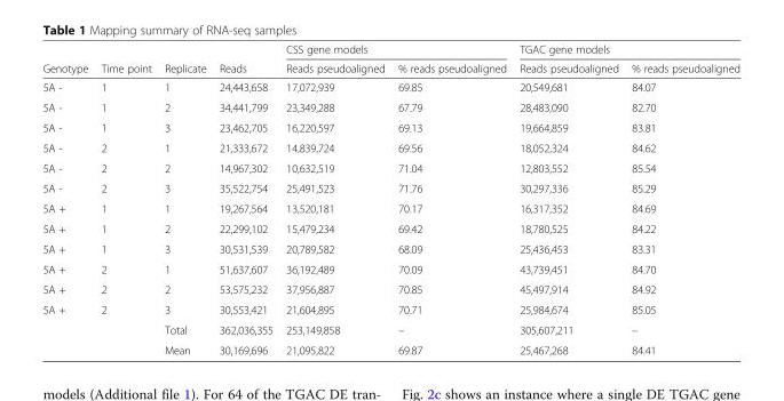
<table><thead><tr><td rowspan="2">Genotype</td><td rowspan="2">Time point</td><td rowspan="2">Replicate</td><td rowspan="2">Reads</td><td colspan="2">CSS gene models</td><td colspan="2">TGAC gene models</td></tr><tr><td>Reads pseudoaligned</td><td>% reads pseudoaligned</td><td>Reads pseudoaligned</td><td>% reads pseudoaligned</td></tr></thead><tbody><tr><td>5A -</td><td>1</td><td>1</td><td>24,443,658</td><td>17,072,939</td><td>69.85</td><td>20,549,681</td><td>84.07</td></tr><tr><td>5A -</td><td>1</td><td>2</td><td>34,441,799</td><td>23,349,288</td><td>67.79</td><td>28,483,090</td><td>82.70</td></tr><tr><td>5A -</td><td>1</td><td>3</td><td>23,462,705</td><td>16,220,597</td><td>69.13</td><td>19,664,859</td><td>83.81</td></tr><tr><td>5A -</td><td>2</td><td>1</td><td>21,333,672</td><td>14,839,724</td><td>69.56</td><td>18,052,324</td><td>84.62</td></tr><tr><td>5A -</td><td>2</td><td>2</td><td>14,967,302</td><td>10,632,519</td><td>71.04</td><td>12,803,552</td><td>85.54</td></tr><tr><td>5A -</td><td>2</td><td>3</td><td>35,522,754</td><td>25,491,523</td><td>71.76</td><td>30,297,336</td><td>85.29</td></tr><tr><td>5A +</td><td>1</td><td>1</td><td>19,267,564</td><td>13,520,181</td><td>70.17</td><td>16,317,352</td><td>84.69</td></tr><tr><td>5A +</td><td>1</td><td>2</td><td>22,299,102</td><td>15,479,234</td><td>69.42</td><td>18,780,525</td><td>84.22</td></tr><tr><td>5A +</td><td>1</td><td>3</td><td>30,531,539</td><td>20,789,582</td><td>68.09</td><td>25,436,453</td><td>83.31</td></tr><tr><td>5A +</td><td>2</td><td>1</td><td>51,637,607</td><td>36,192,489</td><td>70.09</td><td>43,739,451</td><td>84.70</td></tr><tr><td>5A +</td><td>2</td><td>2</td><td>53,575,232</td><td>37,956,887</td><td>70.85</td><td>45,497,914</td><td>84.92</td></tr><tr><td rowspan="3">5A +</td><td>2</td><td>3</td><td>30,553,421</td><td>21,604,895</td><td>70.71</td><td>25,984,674</td><td>85.05</td></tr><tr><td></td><td>Total</td><td>362,036,355</td><td>253,149,858</td><td>–</td><td>305,607,211</td><td>–</td></tr><tr><td></td><td>Mean</td><td>30,169,696</td><td>21,095,822</td><td>69.87</td><td>25,467,268</td><td>84.41</td></tr></tbody></table>